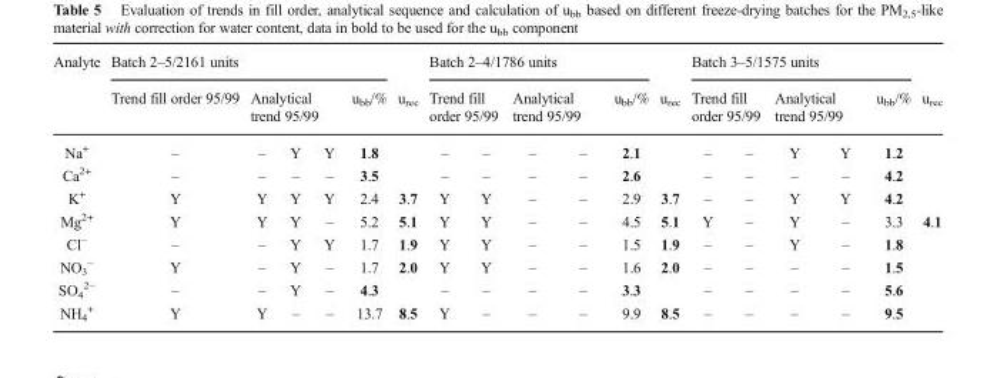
<table><thead><tr><td rowspan="3">Analyte Na<sup>+</sup></td><td colspan="5">Batch 2–5/2161 units</td><td rowspan="3">u<sub>rec</sub></td><td colspan="5">Batch 2–4/1786 units</td><td rowspan="3">u<sub>rec</sub></td><td colspan="5">Batch 3–5/1575 units</td><td rowspan="3">u<sub>rec</sub></td></tr><tr><td rowspan="2">Trend fill order 95/99 –</td><td colspan="3">Analytical trend 95/99</td><td rowspan="2">u<sub>bb</sub>/% 1.8</td><td colspan="2">Trend fill order 95/99</td><td colspan="2">Analytical trend 95/99</td><td rowspan="2">u<sub>bb</sub>/% 2.1</td><td colspan="2">Trend fill order 95/99</td><td colspan="2">Analytical trend 95/99</td><td rowspan="2">u<sub>bb</sub>/% 1.2</td></tr><tr><td>–</td><td>Y</td><td>Y</td><td>–</td><td>–</td><td>–</td><td>–</td><td>–</td><td>–</td><td>Y</td><td>Y</td></tr></thead><tbody><tr><td>Ca<sup>2+</sup></td><td>–</td><td>–</td><td>–</td><td>–</td><td>3.5</td><td></td><td>–</td><td>–</td><td>–</td><td>–</td><td>2.6</td><td></td><td>–</td><td>–</td><td>–</td><td>–</td><td>4.2</td><td></td></tr><tr><td>K<sup>+</sup></td><td>Y</td><td>Y</td><td>Y</td><td>Y</td><td>2.4</td><td>3.7</td><td>Y</td><td>Y</td><td>–</td><td>–</td><td>2.9</td><td>3.7</td><td>–</td><td>–</td><td>Y</td><td>Y</td><td>4.2</td><td></td></tr><tr><td>Mg<sup>2+</sup></td><td>Y</td><td>Y</td><td>Y</td><td>–</td><td>5.2</td><td>5.1</td><td>Y</td><td>Y</td><td>–</td><td>–</td><td>4.5</td><td>5.1</td><td>Y</td><td>–</td><td>Y</td><td>–</td><td>3.3</td><td>4.1</td></tr><tr><td>Cl<sup>−</sup></td><td>–</td><td>–</td><td>Y</td><td>Y</td><td>1.7</td><td>1.9</td><td>Y</td><td>Y</td><td>–</td><td>–</td><td>1.5</td><td>1.9</td><td>–</td><td>–</td><td>Y</td><td>–</td><td>1.8</td><td></td></tr><tr><td>NO<sub>3</sub> <sup>−</sup></td><td>Y</td><td>–</td><td>Y</td><td>–</td><td>1.7</td><td>2.0</td><td>Y</td><td>Y</td><td>–</td><td>–</td><td>1.6</td><td>2.0</td><td>–</td><td>–</td><td>–</td><td>–</td><td>1.5</td><td></td></tr><tr><td>SO<sub>4</sub> <sup>2−</sup></td><td>–</td><td>–</td><td>Y</td><td>–</td><td>4.3</td><td></td><td>–</td><td>–</td><td>–</td><td>–</td><td>3.3</td><td></td><td>–</td><td>–</td><td>–</td><td>–</td><td>5.6</td><td></td></tr><tr><td>NH<sub>4</sub> <sup>+</sup></td><td>Y</td><td>Y</td><td>–</td><td>–</td><td>13.7</td><td>8.5</td><td>Y</td><td>–</td><td>–</td><td>–</td><td>9.9</td><td>8.5</td><td>–</td><td>–</td><td>–</td><td>–</td><td>9.5</td><td></td></tr></tbody></table>